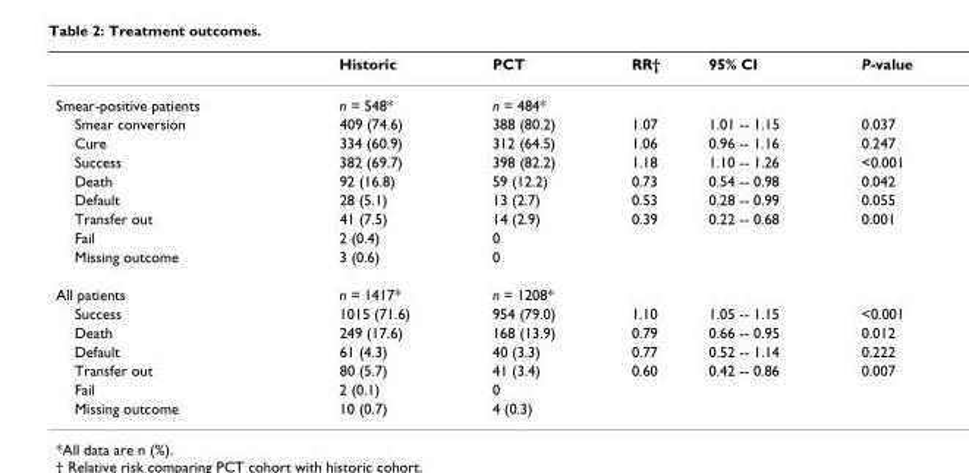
<table><thead><tr><td></td><td>Historic</td><td>PCT</td><td>RR†</td><td>95% CI</td><td>P-value</td></tr></thead><tbody><tr><td>Smear-positive patients</td><td>n = 548*</td><td>n = 484*</td><td></td><td></td><td></td></tr><tr><td>Smear conversion</td><td>409 (74.6)</td><td>388 (80.2)</td><td>1.07</td><td>1.01 -- 1.15</td><td>0.037</td></tr><tr><td>Cure</td><td>334 (60.9)</td><td>312 (64.5)</td><td>1.06</td><td>0.96 -- 1.16</td><td>0.247</td></tr><tr><td>Success</td><td>382 (69.7)</td><td>398 (82.2)</td><td>1.18</td><td>1.10 -- 1.26</td><td>&lt;0.001</td></tr><tr><td>Death</td><td>92 (16.8)</td><td>59 (12.2)</td><td>0.73</td><td>0.54 -- 0.98</td><td>0.042</td></tr><tr><td>Default</td><td>28 (5.1)</td><td>13 (2.7)</td><td>0.53</td><td>0.28 -- 0.99</td><td>0.055</td></tr><tr><td>Transfer out</td><td>41 (7.5)</td><td>14 (2.9)</td><td>0.39</td><td>0.22 -- 0.68</td><td>0.001</td></tr><tr><td>Fail</td><td>2 (0.4)</td><td>0</td><td></td><td></td><td></td></tr><tr><td>Missing outcome</td><td>3 (0.6)</td><td>0</td><td></td><td></td><td></td></tr><tr><td>All patients</td><td>n = 1417*</td><td>n = 1208*</td><td></td><td></td><td></td></tr><tr><td>Success</td><td>1015 (71.6)</td><td>954 (79.0)</td><td>1.10</td><td>1.05 -- 1.15</td><td>&lt;0.001</td></tr><tr><td>Death</td><td>249 (17.6)</td><td>168 (13.9)</td><td>0.79</td><td>0.66 -- 0.95</td><td>0.012</td></tr><tr><td>Default</td><td>61 (4.3)</td><td>40 (3.3)</td><td>0.77</td><td>0.52 -- 1.14</td><td>0.222</td></tr><tr><td>Transfer out</td><td>80 (5.7)</td><td>41 (3.4)</td><td>0.60</td><td>0.42 -- 0.86</td><td>0.007</td></tr><tr><td>Fail</td><td>2 (0.1)</td><td>0</td><td></td><td></td><td></td></tr><tr><td>Missing outcome</td><td>10 (0.7)</td><td>4 (0.3)</td><td></td><td></td><td></td></tr></tbody></table>